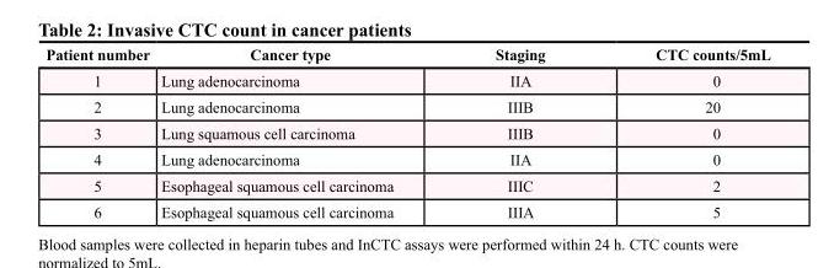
<table><thead><tr><td>Patient number</td><td>Cancer type</td><td>Staging</td><td>CTC counts/5mL</td></tr></thead><tbody><tr><td>1</td><td>Lung adenocarcinoma</td><td>IIA</td><td>0</td></tr><tr><td>2</td><td>Lung adenocarcinoma</td><td>IIIB</td><td>20</td></tr><tr><td>3</td><td>Lung squamous cell carcinoma</td><td>IIIB</td><td>0</td></tr><tr><td>4</td><td>Lung adenocarcinoma</td><td>IIA</td><td>0</td></tr><tr><td>5</td><td>Esophageal squamous cell carcinoma</td><td>IIIC</td><td>2</td></tr><tr><td>6</td><td>Esophageal squamous cell carcinoma</td><td>IIIA</td><td>5</td></tr></tbody></table>